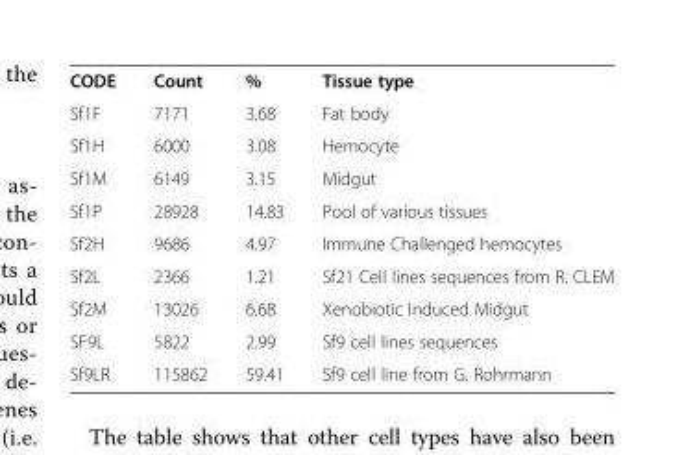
<table><tbody><tr><td>CODE</td><td>Count</td><td>%</td><td>Tissue type</td></tr><tr><td>Sf1F</td><td>7171</td><td>3.68</td><td>Fat body</td></tr><tr><td>Sf1H</td><td>6000</td><td>3.08</td><td>Hemocyte</td></tr><tr><td>Sf1M</td><td>6149</td><td>3.15</td><td>Midgut</td></tr><tr><td>Sf1P</td><td>28928</td><td>14.83</td><td>Pool of various tissues</td></tr><tr><td>Sf2H</td><td>9686</td><td>4.97</td><td>Immune Challenged hemocytes</td></tr><tr><td>Sf2L</td><td>2366</td><td>1.21</td><td>Sf21 Cell lines sequences from R. CLEM</td></tr><tr><td>Sf2M</td><td>13026</td><td>6.68</td><td>Xenobiotic Induced Midgut</td></tr><tr><td>SF9L</td><td>5822</td><td>2.99</td><td>Sf9 cell lines sequences</td></tr><tr><td>Sf9LR</td><td>115862</td><td>59.41</td><td>Sf9 cell line from G. Rohrmann</td></tr></tbody></table>